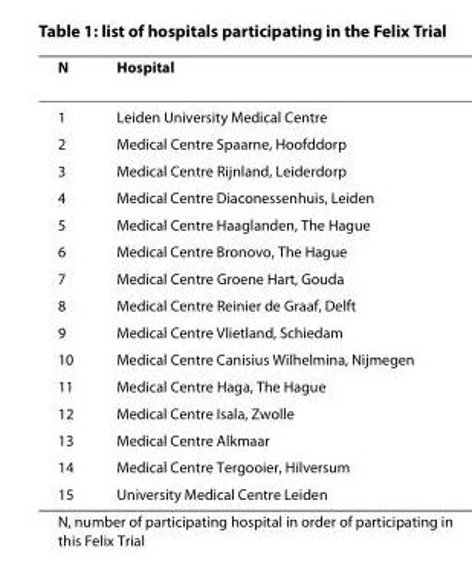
<table><thead><tr><td>N</td><td>Hospital</td></tr></thead><tbody><tr><td>1</td><td>Leiden University Medical Centre</td></tr><tr><td>2</td><td>Medical Centre Spaarne, Hoofddorp</td></tr><tr><td>3</td><td>Medical Centre Rijnland, Leiderdorp</td></tr><tr><td>4</td><td>Medical Centre Diaconessenhuis, Leiden</td></tr><tr><td>5</td><td>Medical Centre Haaglanden, The Hague</td></tr><tr><td>6</td><td>Medical Centre Bronovo, The Hague</td></tr><tr><td>7</td><td>Medical Centre Groene Hart, Gouda</td></tr><tr><td>8</td><td>Medical Centre Reinier de Graaf, Delft</td></tr><tr><td>9</td><td>Medical Centre Vlietland, Schiedam</td></tr><tr><td>10</td><td>Medical Centre Canisius Wilhelmina, Nijmegen</td></tr><tr><td>11</td><td>Medical Centre Haga, The Hague</td></tr><tr><td>12</td><td>Medical Centre Isala, Zwolle</td></tr><tr><td>13</td><td>Medical Centre Alkmaar</td></tr><tr><td>14</td><td>Medical Centre Tergooier, Hilversum</td></tr><tr><td>15</td><td>University Medical Centre Leiden</td></tr></tbody></table>